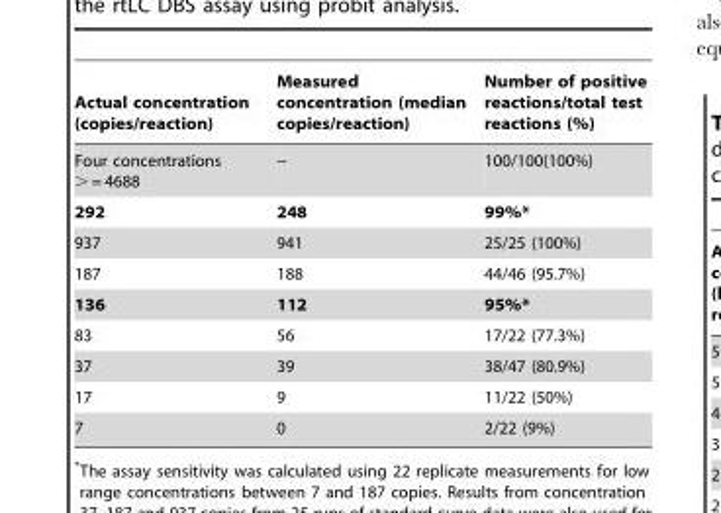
<table><thead><tr><td>Actual concentration (copies/reaction)</td><td>Measured concentration (median copies/reaction)</td><td>Number of positive reactions/total test reactions (%)</td></tr></thead><tbody><tr><td>Four concentrations &gt; = 4688</td><td>--</td><td>100/100(100%)</td></tr><tr><td>292</td><td>248</td><td>99%*</td></tr><tr><td>937</td><td>941</td><td>25/25 (100%)</td></tr><tr><td>187</td><td>188</td><td>44/46 (95.7%)</td></tr><tr><td>136</td><td>112</td><td>95%*</td></tr><tr><td>83</td><td>56</td><td>17/22 (77.3%)</td></tr><tr><td>37</td><td>39</td><td>38/47 (80.9%)</td></tr><tr><td>17</td><td>9</td><td>11/22 (50%)</td></tr><tr><td>7</td><td>0</td><td>2/22 (9%)</td></tr></tbody></table>